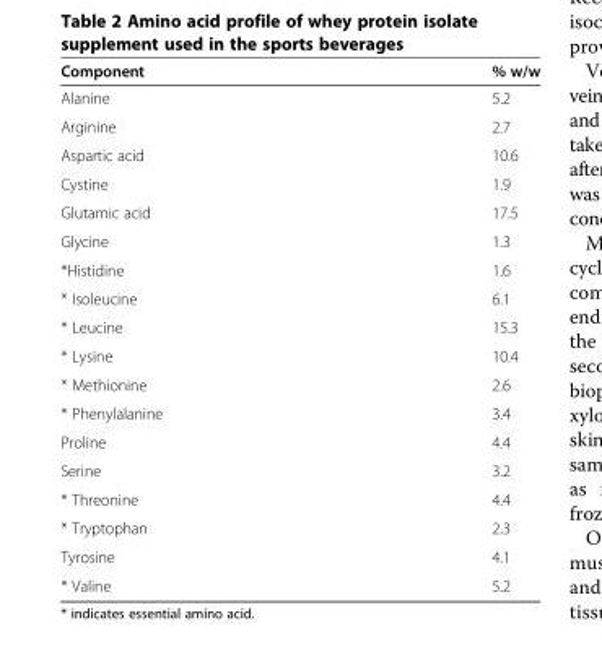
<table><thead><tr><td>Component</td><td>% w/w</td></tr></thead><tbody><tr><td>Alanine</td><td>5.2</td></tr><tr><td>Arginine</td><td>2.7</td></tr><tr><td>Aspartic acid</td><td>10.6</td></tr><tr><td>Cystine</td><td>1.9</td></tr><tr><td>Glutamic acid</td><td>17.5</td></tr><tr><td>Glycine</td><td>1.3</td></tr><tr><td>*Histidine</td><td>1.6</td></tr><tr><td>* Isoleucine</td><td>6.1</td></tr><tr><td>* Leucine</td><td>15.3</td></tr><tr><td>* Lysine</td><td>10.4</td></tr><tr><td>* Methionine</td><td>2.6</td></tr><tr><td>* Phenylalanine</td><td>3.4</td></tr><tr><td>Proline</td><td>4.4</td></tr><tr><td>Serine</td><td>3.2</td></tr><tr><td>* Threonine</td><td>4.4</td></tr><tr><td>* Tryptophan</td><td>2.3</td></tr><tr><td>Tyrosine</td><td>4.1</td></tr><tr><td>* Valine</td><td>5.2</td></tr></tbody></table>